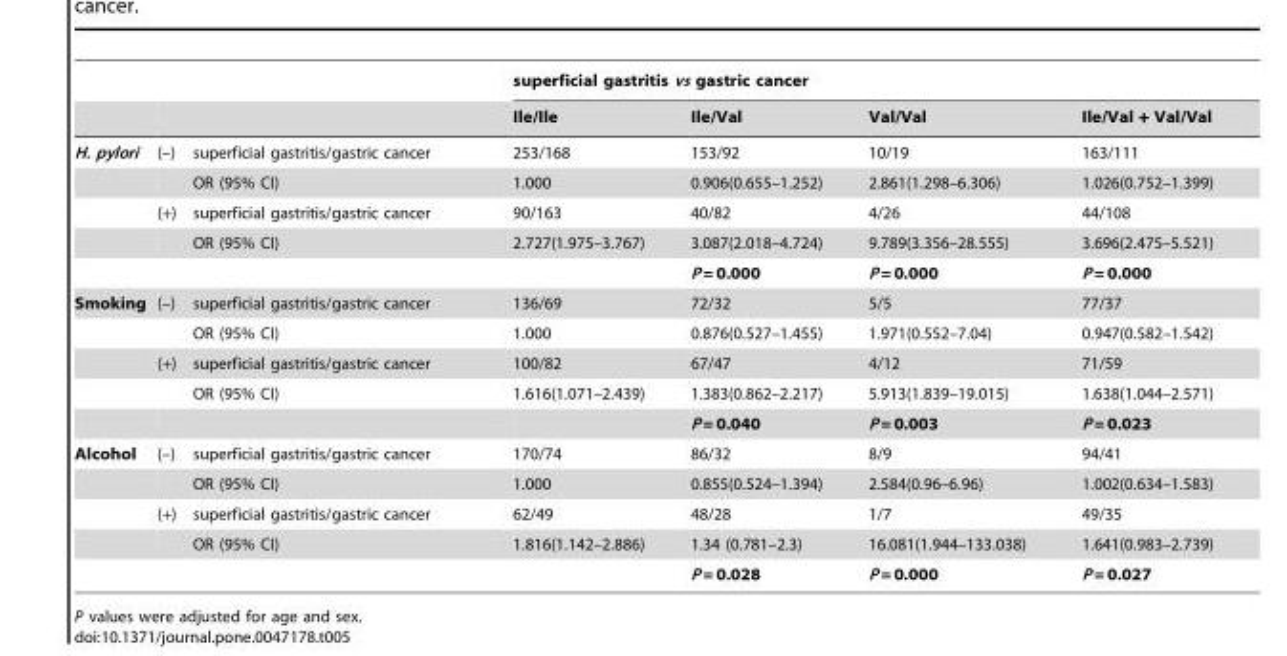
<table><thead><tr><td rowspan="2"></td><td rowspan="2"></td><td rowspan="2"></td><td colspan="4">superficial gastritis vs gastric cancer</td></tr><tr><td>Ile/Ile</td><td>Ile/Val</td><td>Val/Val</td><td>Ile/Val + Val/Val</td></tr></thead><tbody><tr><td rowspan="5">H. pylori</td><td>(–)</td><td>superficial gastritis/gastric cancer</td><td>253/168</td><td>153/92</td><td>10/19</td><td>163/111</td></tr><tr><td></td><td>OR (95% CI)</td><td>1.000</td><td>0.906(0.655–1.252)</td><td>2.861(1.298–6.306)</td><td>1.026(0.752–1.399)</td></tr><tr><td>(+)</td><td>superficial gastritis/gastric cancer</td><td>90/163</td><td>40/82</td><td>4/26</td><td>44/108</td></tr><tr><td></td><td>OR (95% CI)</td><td>2.727(1.975–3.767)</td><td>3.087(2.018–4.724)</td><td>9.789(3.356–28.555)</td><td>3.696(2.475–5.521)</td></tr><tr><td></td><td></td><td></td><td>P = 0.000</td><td>P = 0.000</td><td>P = 0.000</td></tr><tr><td rowspan="5">Smoking</td><td>(–)</td><td>superficial gastritis/gastric cancer</td><td>136/69</td><td>72/32</td><td>5/5</td><td>77/37</td></tr><tr><td></td><td>OR (95% CI)</td><td>1.000</td><td>0.876(0.527–1.455)</td><td>1.971(0.552–7.04)</td><td>0.947(0.582–1.542)</td></tr><tr><td>(+)</td><td>superficial gastritis/gastric cancer</td><td>100/82</td><td>67/47</td><td>4/12</td><td>71/59</td></tr><tr><td></td><td>OR (95% CI)</td><td>1.616(1.071–2.439)</td><td>1.383(0.862–2.217)</td><td>5.913(1.839–19.015)</td><td>1.638(1.044–2.571)</td></tr><tr><td></td><td></td><td></td><td>P = 0.040</td><td>P = 0.003</td><td>P = 0.023</td></tr><tr><td rowspan="5">Alcohol</td><td>(–)</td><td>superficial gastritis/gastric cancer</td><td>170/74</td><td>86/32</td><td>8/9</td><td>94/41</td></tr><tr><td></td><td>OR (95% CI)</td><td>1.000</td><td>0.855(0.524–1.394)</td><td>2.584(0.96–6.96)</td><td>1.002(0.634–1.583)</td></tr><tr><td>(+)</td><td>superficial gastritis/gastric cancer</td><td>62/49</td><td>48/28</td><td>1/7</td><td>49/35</td></tr><tr><td></td><td>OR (95% CI)</td><td>1.816(1.142–2.886)</td><td>1.34 (0.781–2.3)</td><td>16.081(1.944–133.038)</td><td>1.641(0.983–2.739)</td></tr><tr><td></td><td></td><td></td><td>P = 0.028</td><td>P = 0.000</td><td>P = 0.027</td></tr></tbody></table>